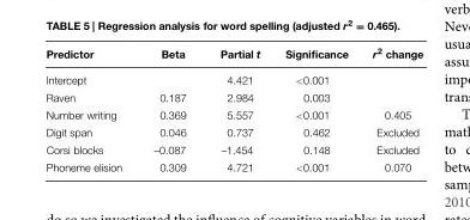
<table><thead><tr><td>Predictor</td><td>Beta</td><td>Partial t</td><td>Significance</td><td>r<sup>2</sup> change</td></tr></thead><tbody><tr><td>Intercept</td><td></td><td>4.421</td><td>&lt;0.001</td><td></td></tr><tr><td>Raven</td><td>0.187</td><td>2.984</td><td>0.003</td><td></td></tr><tr><td>Number writing</td><td>0.369</td><td>5.557</td><td>&lt;0.001</td><td>0.405</td></tr><tr><td>Digit span</td><td>0.046</td><td>0.737</td><td>0.462</td><td>Excluded</td></tr><tr><td>Corsi blocks</td><td>–0.087</td><td>–1.454</td><td>0.148</td><td>Excluded</td></tr><tr><td>Phoneme elision</td><td>0.309</td><td>4.721</td><td>&lt;0.001</td><td>0.070</td></tr></tbody></table>